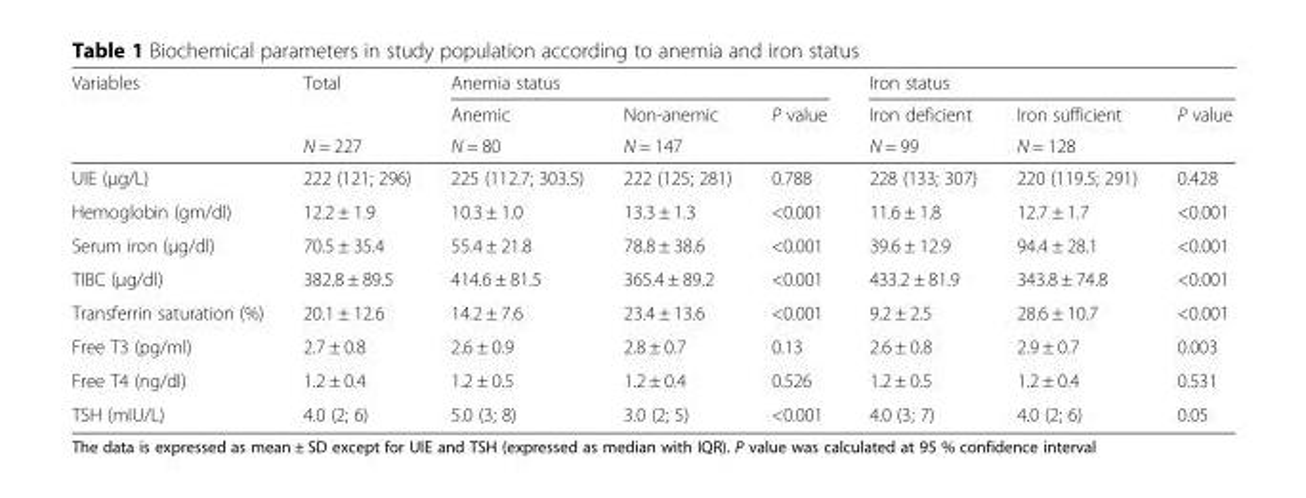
<table><thead><tr><td rowspan="3">Variables</td><td rowspan="3">Total N = 227</td><td colspan="3">Anemia status</td><td colspan="3">Iron status</td></tr><tr><td rowspan="2">Anemic N = 80</td><td rowspan="2">Non-anemic N = 147</td><td rowspan="2">P value</td><td rowspan="2">Iron deficient N = 99</td><td rowspan="2">Iron sufficient N = 128</td><td rowspan="2">P value</td></tr><tr></tr></thead><tbody><tr><td>UIE (μg/L)</td><td>222 (121; 296)</td><td>225 (112.7; 303.5)</td><td>222 (125; 281)</td><td>0.788</td><td>228 (133; 307)</td><td>220 (119.5; 291)</td><td>0.428</td></tr><tr><td>Hemoglobin (gm/dl)</td><td>12.2 ± 1.9</td><td>10.3 ± 1.0</td><td>13.3 ± 1.3</td><td>&lt;0.001</td><td>11.6 ± 1.8</td><td>12.7 ± 1.7</td><td>&lt;0.001</td></tr><tr><td>Serum iron (μg/dl)</td><td>70.5 ± 35.4</td><td>55.4 ± 21.8</td><td>78.8 ± 38.6</td><td>&lt;0.001</td><td>39.6 ± 12.9</td><td>94.4 ± 28.1</td><td>&lt;0.001</td></tr><tr><td>TIBC (μg/dl)</td><td>382.8 ± 89.5</td><td>414.6 ± 81.5</td><td>365.4 ± 89.2</td><td>&lt;0.001</td><td>433.2 ± 81.9</td><td>343.8 ± 74.8</td><td>&lt;0.001</td></tr><tr><td>Transferrin saturation (%)</td><td>20.1 ± 12.6</td><td>14.2 ± 7.6</td><td>23.4 ± 13.6</td><td>&lt;0.001</td><td>9.2 ± 2.5</td><td>28.6 ± 10.7</td><td>&lt;0.001</td></tr><tr><td>Free T3 (pg/ml)</td><td>2.7 ± 0.8</td><td>2.6 ± 0.9</td><td>2.8 ± 0.7</td><td>0.13</td><td>2.6 ± 0.8</td><td>2.9 ± 0.7</td><td>0.003</td></tr><tr><td>Free T4 (ng/dl)</td><td>1.2 ± 0.4</td><td>1.2 ± 0.5</td><td>1.2 ± 0.4</td><td>0.526</td><td>1.2 ± 0.5</td><td>1.2 ± 0.4</td><td>0.531</td></tr><tr><td>TSH (mIU/L)</td><td>4.0 (2; 6)</td><td>5.0 (3; 8)</td><td>3.0 (2; 5)</td><td>&lt;0.001</td><td>4.0 (3; 7)</td><td>4.0 (2; 6)</td><td>0.05</td></tr></tbody></table>